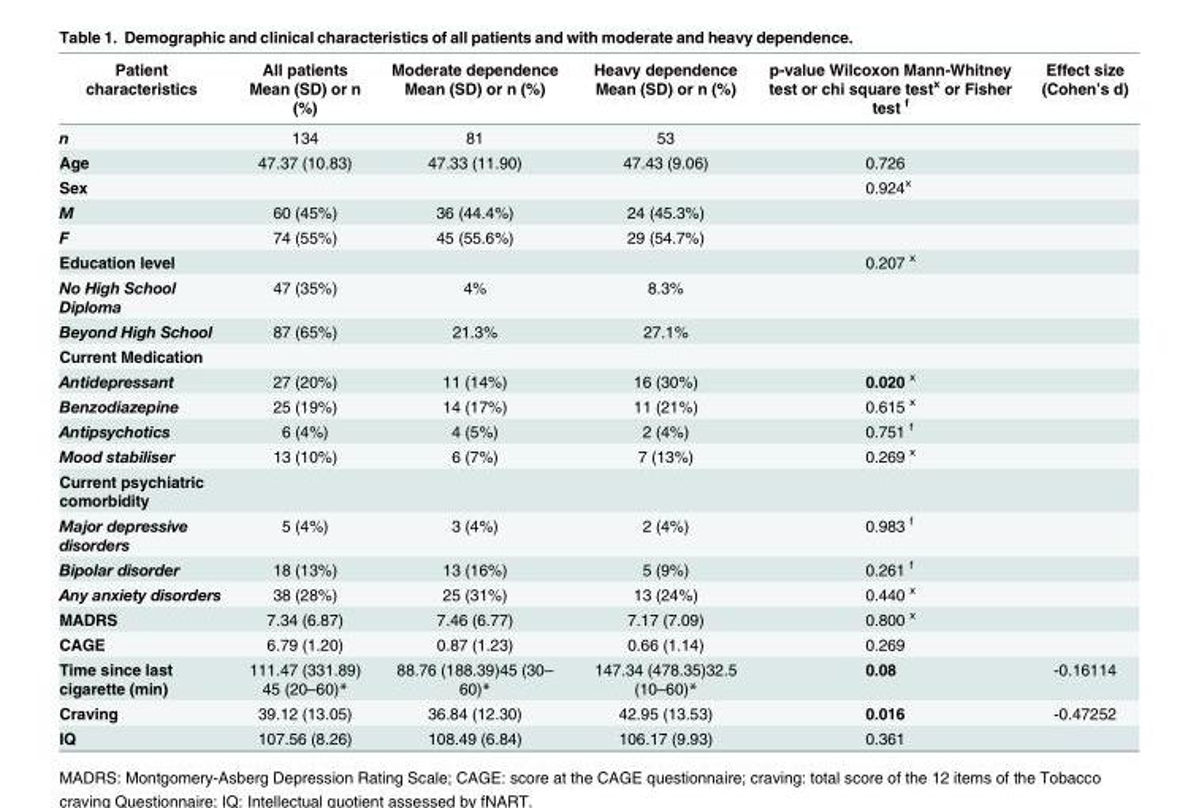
<table><thead><tr><td>Patient characteristics</td><td>All patients Mean (SD) or n (%)</td><td>Moderate dependence Mean (SD) or n (%)</td><td>Heavy dependence Mean (SD) or n (%)</td><td>p-value Wilcoxon Mann-Whitney test or chi square test<sup>x</sup> or Fisher test <sup>f</sup></td><td>Effect size (Cohen’s d)</td></tr></thead><tbody><tr><td>n</td><td>134</td><td>81</td><td>53</td><td></td><td></td></tr><tr><td>Age</td><td>47.37 (10.83)</td><td>47.33 (11.90)</td><td>47.43 (9.06)</td><td>0.726</td><td></td></tr><tr><td>Sex</td><td></td><td></td><td></td><td>0.924<sup>x</sup></td><td></td></tr><tr><td>M</td><td>60 (45%)</td><td>36 (44.4%)</td><td>24 (45.3%)</td><td></td><td></td></tr><tr><td>F</td><td>74 (55%)</td><td>45 (55.6%)</td><td>29 (54.7%)</td><td></td><td></td></tr><tr><td>Education level</td><td></td><td></td><td></td><td>0.207 <sup>x</sup></td><td></td></tr><tr><td>No High School Diploma</td><td>47 (35%)</td><td>4%</td><td>8.3%</td><td></td><td></td></tr><tr><td>Beyond High School</td><td>87 (65%)</td><td>21.3%</td><td>27.1%</td><td></td><td></td></tr><tr><td colspan="6">Current Medication</td></tr><tr><td>Antidepressant</td><td>27 (20%)</td><td>11 (14%)</td><td>16 (30%)</td><td>0.020 <sup>x</sup></td><td></td></tr><tr><td>Benzodiazepine</td><td>25 (19%)</td><td>14 (17%)</td><td>11 (21%)</td><td>0.615 <sup>x</sup></td><td></td></tr><tr><td>Antipsychotics</td><td>6 (4%)</td><td>4 (5%)</td><td>2 (4%)</td><td>0.751 <sup>f</sup></td><td></td></tr><tr><td>Mood stabiliser</td><td>13 (10%)</td><td>6 (7%)</td><td>7 (13%)</td><td>0.269 <sup>x</sup></td><td></td></tr><tr><td colspan="6">Current psychiatric comorbidity</td></tr><tr><td>Major depressive disorders</td><td>5 (4%)</td><td>3 (4%)</td><td>2 (4%)</td><td>0.983 <sup>f</sup></td><td></td></tr><tr><td>Bipolar disorder</td><td>18 (13%)</td><td>13 (16%)</td><td>5 (9%)</td><td>0.261 <sup>f</sup></td><td></td></tr><tr><td>Any anxiety disorders</td><td>38 (28%)</td><td>25 (31%)</td><td>13 (24%)</td><td>0.440 <sup>x</sup></td><td></td></tr><tr><td>MADRS</td><td>7.34 (6.87)</td><td>7.46 (6.77)</td><td>7.17 (7.09)</td><td>0.800 <sup>x</sup></td><td></td></tr><tr><td>CAGE</td><td>6.79 (1.20)</td><td>0.87 (1.23)</td><td>0.66 (1.14)</td><td>0.269</td><td></td></tr><tr><td>Time since last cigarette (min)</td><td>111.47 (331.89) 45 (20–60)*</td><td>88.76 (188.39)45 (30– 60)*</td><td>147.34 (478.35)32.5 (10–60)*</td><td>0.08</td><td>-0.16114</td></tr><tr><td>Craving</td><td>39.12 (13.05)</td><td>36.84 (12.30)</td><td>42.95 (13.53)</td><td>0.016</td><td>-0.47252</td></tr><tr><td>IQ</td><td>107.56 (8.26)</td><td>108.49 (6.84)</td><td>106.17 (9.93)</td><td>0.361</td><td></td></tr></tbody></table>